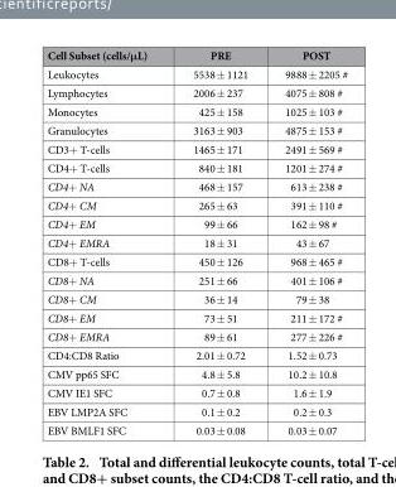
<table><thead><tr><td>Cell Subset (cells/μL)</td><td>PRE</td><td>POST</td></tr></thead><tbody><tr><td>Leukocytes</td><td>5538 ± 1121</td><td>9888 ± 2205 #</td></tr><tr><td>Lymphocytes</td><td>2006 ± 237</td><td>4075 ± 808 #</td></tr><tr><td>Monocytes</td><td>425 ± 158</td><td>1025 ± 103 #</td></tr><tr><td>Granulocytes</td><td>3163 ± 903</td><td>4875 ± 153 #</td></tr><tr><td>CD3+ T-cells</td><td>1465 ± 171</td><td>2491 ± 569 #</td></tr><tr><td>CD4+ T-cells</td><td>840 ± 181</td><td>1201 ± 274 #</td></tr><tr><td>CD4+ NA</td><td>468 ± 157</td><td>613 ± 238 #</td></tr><tr><td>CD4+ CM</td><td>265 ± 63</td><td>391 ± 110 #</td></tr><tr><td>CD4+ EM</td><td>99 ± 66</td><td>162 ± 98 #</td></tr><tr><td>CD4+ EMRA</td><td>18 ± 31</td><td>43 ± 67</td></tr><tr><td>CD8+ T-cells</td><td>450 ± 126</td><td>968 ± 465 #</td></tr><tr><td>CD8+ NA</td><td>251 ± 66</td><td>401 ± 106 #</td></tr><tr><td>CD8+ CM</td><td>36 ± 14</td><td>79 ± 38</td></tr><tr><td>CD8+ EM</td><td>73 ± 51</td><td>211 ± 172 #</td></tr><tr><td>CD8+ EMRA</td><td>89 ± 61</td><td>277 ± 226 #</td></tr><tr><td>CD4:CD8 Ratio</td><td>2.01 ± 0.72</td><td>1.52 ± 0.73</td></tr><tr><td>CMV pp65 SFC</td><td>4.8 ± 5.8</td><td>10.2 ± 10.8</td></tr><tr><td>CMV IE1 SFC</td><td>0.7 ± 0.8</td><td>1.6 ± 1.9</td></tr><tr><td>EBV LMP2A SFC</td><td>0.1 ± 0.2</td><td>0.2 ± 0.3</td></tr><tr><td>EBV BMLF1 SFC</td><td>0.03 ± 0.08</td><td>0.03 ± 0.07</td></tr></tbody></table>